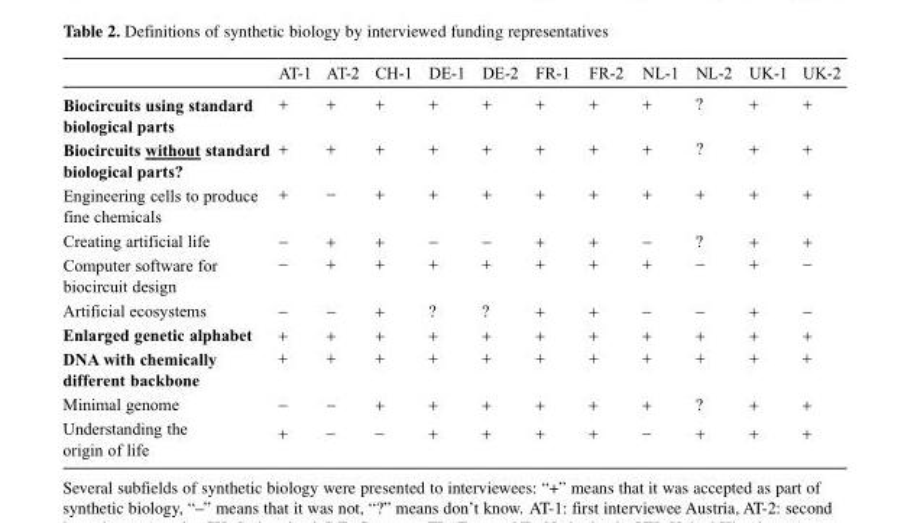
<table><thead><tr><td></td><td>AT-1</td><td>AT-2</td><td>CH-1</td><td>DE-1</td><td>DE-2</td><td>FR-1</td><td>FR-2</td><td>NL-1</td><td>NL-2</td><td>UK-1</td><td>UK-2</td></tr></thead><tbody><tr><td>Biocircuits using standard biological parts</td><td>+</td><td>+</td><td>+</td><td>+</td><td>+</td><td>+</td><td>+</td><td>+</td><td>?</td><td>+</td><td>+</td></tr><tr><td>Biocircuits without standard biological parts?</td><td>+</td><td>+</td><td>+</td><td>+</td><td>+</td><td>+</td><td>+</td><td>+</td><td>?</td><td>+</td><td>+</td></tr><tr><td>Engineering cells to produce fine chemicals</td><td>+</td><td>-</td><td>+</td><td>+</td><td>+</td><td>+</td><td>+</td><td>+</td><td>+</td><td>+</td><td>+</td></tr><tr><td>Creating artificial life</td><td>-</td><td>+</td><td>+</td><td>-</td><td>-</td><td>+</td><td>+</td><td>-</td><td>?</td><td>+</td><td>+</td></tr><tr><td>Computer software for biocircuit design</td><td>-</td><td>+</td><td>+</td><td>+</td><td>+</td><td>+</td><td>+</td><td>+</td><td>-</td><td>+</td><td>-</td></tr><tr><td>Artificial ecosystems</td><td>-</td><td>-</td><td>+</td><td>?</td><td>?</td><td>+</td><td>+</td><td>-</td><td>-</td><td>+</td><td>-</td></tr><tr><td>Enlarged genetic alphabet</td><td>+</td><td>+</td><td>+</td><td>+</td><td>+</td><td>+</td><td>+</td><td>+</td><td>+</td><td>+</td><td>+</td></tr><tr><td>DNA with chemically different backbone</td><td>+</td><td>+</td><td>+</td><td>+</td><td>+</td><td>+</td><td>+</td><td>+</td><td>+</td><td>+</td><td>+</td></tr><tr><td>Minimal genome</td><td>-</td><td>-</td><td>+</td><td>+</td><td>+</td><td>+</td><td>+</td><td>+</td><td>?</td><td>+</td><td>+</td></tr><tr><td>Understanding the origin of life</td><td>+</td><td>-</td><td>-</td><td>+</td><td>+</td><td>+</td><td>+</td><td>-</td><td>+</td><td>+</td><td>+</td></tr></tbody></table>